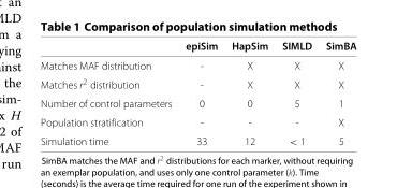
<table><thead><tr><td></td><td>epiSim</td><td>HapSim</td><td>SIMLD</td><td>SimBA</td></tr></thead><tbody><tr><td>Matches MAF distribution</td><td>-</td><td>X</td><td>X</td><td>X</td></tr><tr><td>Matches r<sup>2</sup> distribution</td><td>-</td><td>X</td><td>X</td><td>X</td></tr><tr><td>Number of control parameters</td><td>0</td><td>0</td><td>5</td><td>1</td></tr><tr><td>Population stratification</td><td>-</td><td>-</td><td>-</td><td>X</td></tr><tr><td>Simulation time</td><td>33</td><td>12</td><td>&lt; 1</td><td>5</td></tr></tbody></table>